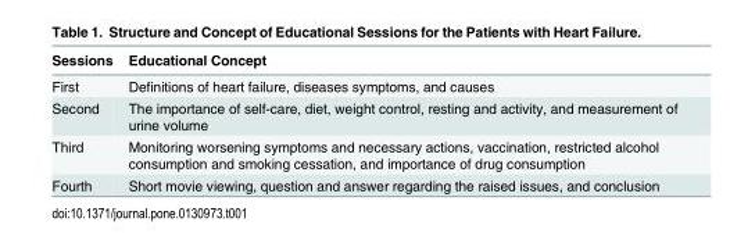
<table><thead><tr><td>Sessions</td><td>Educational Concept</td></tr></thead><tbody><tr><td>First</td><td>Definitions of heart failure, diseases symptoms, and causes</td></tr><tr><td>Second</td><td>The importance of self-care, diet, weight control, resting and activity, and measurement of urine volume</td></tr><tr><td>Third</td><td>Monitoring worsening symptoms and necessary actions, vaccination, restricted alcohol consumption and smoking cessation, and importance of drug consumption</td></tr><tr><td>Fourth</td><td>Short movie viewing, question and answer regarding the raised issues, and conclusion</td></tr></tbody></table>